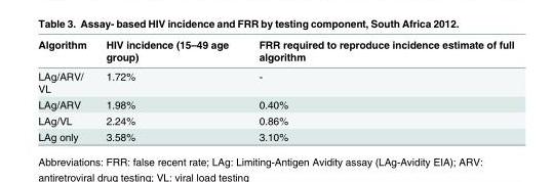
<table><thead><tr><td>Algorithm</td><td>HIV incidence (15–49 age group)</td><td>FRR required to reproduce incidence estimate of full algorithm</td></tr></thead><tbody><tr><td>LAg/ARV/ VL</td><td>1.72%</td><td>-</td></tr><tr><td>LAg/ARV</td><td>1.98%</td><td>0.40%</td></tr><tr><td>LAg/VL</td><td>2.24%</td><td>0.86%</td></tr><tr><td>LAg only</td><td>3.58%</td><td>3.10%</td></tr></tbody></table>